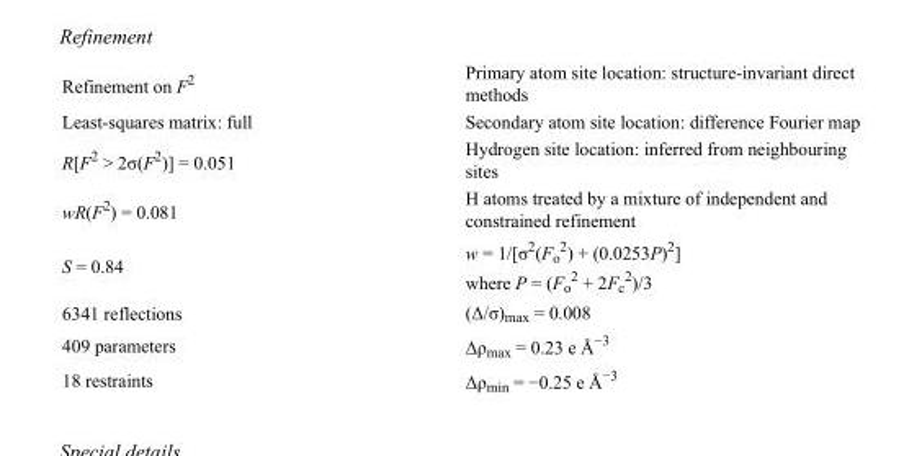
<table><tbody><tr><td>Refinement on F<sup>2</sup></td><td>Primary atom site location: structure-invariant direct methods</td></tr><tr><td>Least-squares matrix: full</td><td>Secondary atom site location: difference Fourier map</td></tr><tr><td>R[F<sup>2</sup> &gt; 2σ(F<sup>2</sup>)] = 0.051</td><td>Hydrogen site location: inferred from neighbouring sites</td></tr><tr><td>wR(F<sup>2</sup>) = 0.081</td><td>H atoms treated by a mixture of independent and constrained refinement</td></tr><tr><td>S = 0.84</td><td>w = 1/[σ<sup>2</sup>(F<sub>o</sub> <sup>2</sup>) + (0.0253P)<sup>2</sup>] where P = (F<sub>o</sub> <sup>2</sup> + 2F<sub>c</sub> <sup>2</sup>)/3</td></tr><tr><td>6341 reflections</td><td>(Δ/σ)<sub>max</sub> = 0.008</td></tr><tr><td>409 parameters</td><td>Δρ<sub>max</sub> = 0.23 e Å<sup>−3</sup></td></tr><tr><td>18 restraints</td><td>Δρ<sub>min</sub> = −0.25 e Å<sup>−3</sup></td></tr></tbody></table>